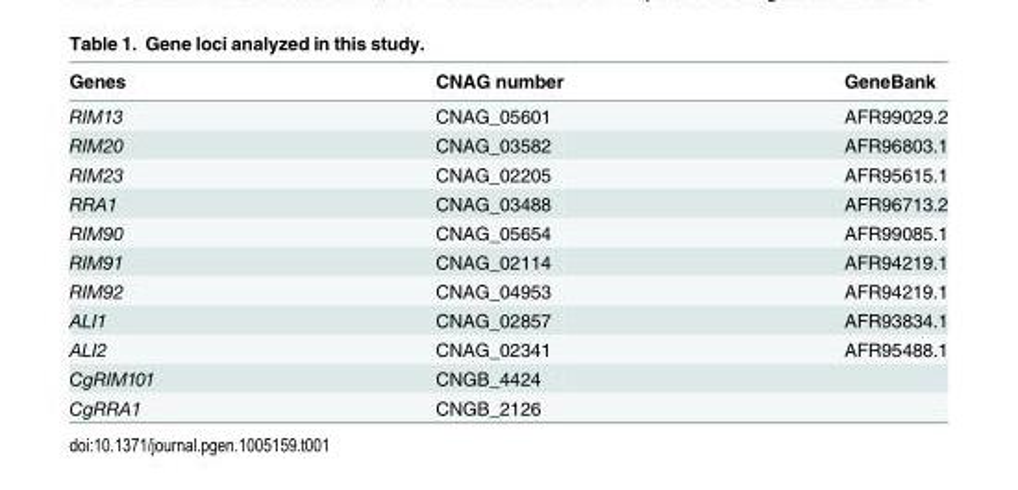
<table><thead><tr><td>Genes</td><td>CNAG number</td><td>GeneBank</td></tr></thead><tbody><tr><td>RIM13</td><td>CNAG_05601</td><td>AFR99029.2</td></tr><tr><td>RIM20</td><td>CNAG_03582</td><td>AFR96803.1</td></tr><tr><td>RIM23</td><td>CNAG_02205</td><td>AFR95615.1</td></tr><tr><td>RRA1</td><td>CNAG_03488</td><td>AFR96713.2</td></tr><tr><td>RIM90</td><td>CNAG_05654</td><td>AFR99085.1</td></tr><tr><td>RIM91</td><td>CNAG_02114</td><td>AFR94219.1</td></tr><tr><td>RIM92</td><td>CNAG_04953</td><td>AFR94219.1</td></tr><tr><td>ALI1</td><td>CNAG_02857</td><td>AFR93834.1</td></tr><tr><td>ALI2</td><td>CNAG_02341</td><td>AFR95488.1</td></tr><tr><td>CgRIM101</td><td>CNGB_4424</td><td></td></tr><tr><td>CgRRA1</td><td>CNGB_2126</td><td></td></tr></tbody></table>